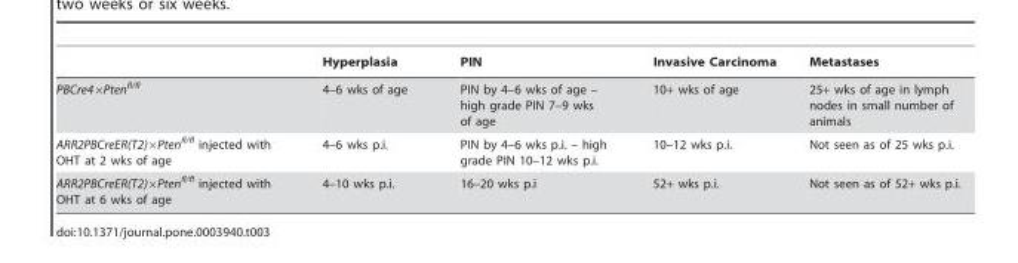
<table><thead><tr><td></td><td>Hyperplasia</td><td>PIN</td><td>Invasive Carcinoma</td><td>Metastases</td></tr></thead><tbody><tr><td>PBCre4×Pten<sup>fl/fl</sup></td><td>4–6 wks of age</td><td>PIN by 4–6 wks of age – high grade PIN 7–9 wks of age</td><td>10+ wks of age</td><td>25+ wks of age in lymph nodes in small number of animals</td></tr><tr><td>ARR2PBCreER(T2)×Pten<sup>fl/fl</sup> injected with OHT at 2 wks of age</td><td>4–6 wks p.i.</td><td>PIN by 4–6 wks p.i. – high grade PIN 10–12 wks p.i.</td><td>10–12 wks p.i.</td><td>Not seen as of 25 wks p.i.</td></tr><tr><td>ARR2PBCreER(T2)×Pten<sup>fl/fl</sup> injected with OHT at 6 wks of age</td><td>4–10 wks p.i.</td><td>16–20 wks p.i</td><td>52+ wks p.i.</td><td>Not seen as of 52+ wks p.i.</td></tr></tbody></table>